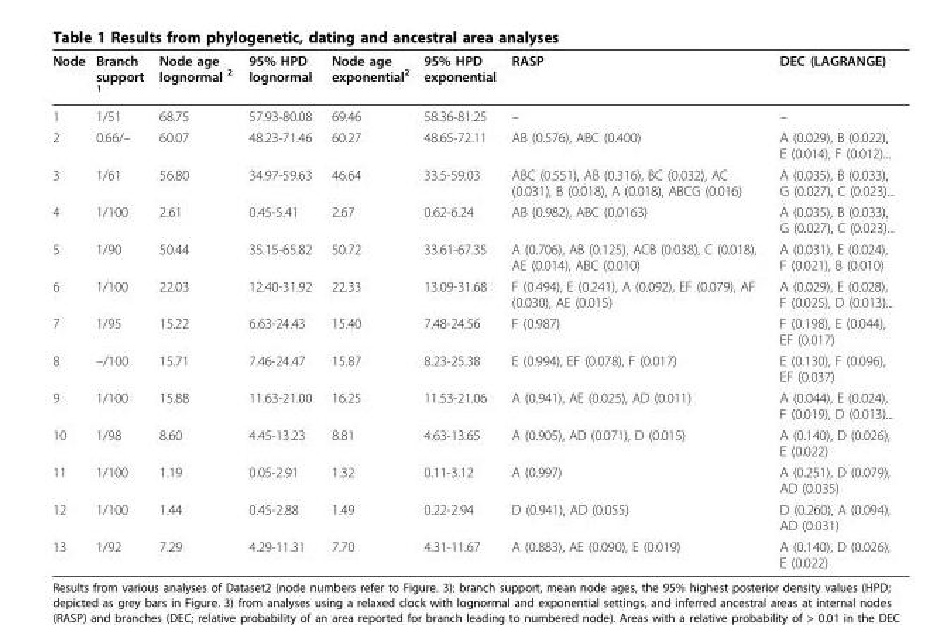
<table><thead><tr><td>Node</td><td>Branch support <sup>1</sup></td><td>Node age lognormal <sup>2</sup></td><td>95% HPD lognormal</td><td>Node age exponential<sup>2</sup></td><td>95% HPD exponential</td><td>RASP</td><td>DEC (LAGRANGE)</td></tr></thead><tbody><tr><td>1</td><td>1/51</td><td>68.75</td><td>57.93-80.08</td><td>69.46</td><td>58.36-81.25</td><td>–</td><td>–</td></tr><tr><td>2</td><td>0.66/–</td><td>60.07</td><td>48.23-71.46</td><td>60.27</td><td>48.65-72.11</td><td>AB (0.576), ABC (0.400)</td><td>A (0.029), B (0.022), E (0.014), F (0.012)...</td></tr><tr><td>3</td><td>1/61</td><td>56.80</td><td>34.97-59.63</td><td>46.64</td><td>33.5-59.03</td><td>ABC (0.551), AB (0.316), BC (0.032), AC (0.031), B (0.018), A (0.018), ABCG (0.016)</td><td>A (0.035), B (0.033), G (0.027), C (0.023)...</td></tr><tr><td>4</td><td>1/100</td><td>2.61</td><td>0.45-5.41</td><td>2.67</td><td>0.62-6.24</td><td>AB (0.982), ABC (0.0163)</td><td>A (0.035), B (0.033), G (0.027), C (0.023)...</td></tr><tr><td>5</td><td>1/90</td><td>50.44</td><td>35.15-65.82</td><td>50.72</td><td>33.61-67.35</td><td>A (0.706), AB (0.125), ACB (0.038), C (0.018), AE (0.014), ABC (0.010)</td><td>A (0.031), E (0.024), F (0.021), B (0.010)</td></tr><tr><td>6</td><td>1/100</td><td>22.03</td><td>12.40-31.92</td><td>22.33</td><td>13.09-31.68</td><td>F (0.494), E (0.241), A (0.092), EF (0.079), AF (0.030), AE (0.015)</td><td>A (0.029), E (0.028), F (0.025), D (0.013)...</td></tr><tr><td>7</td><td>1/95</td><td>15.22</td><td>6.63-24.43</td><td>15.40</td><td>7.48-24.56</td><td>F (0.987)</td><td>F (0.198), E (0.044), EF (0.017)</td></tr><tr><td>8</td><td>–/100</td><td>15.71</td><td>7.46-24.47</td><td>15.87</td><td>8.23-25.38</td><td>E (0.994), EF (0.078), F (0.017)</td><td>E (0.130), F (0.096), EF (0.037)</td></tr><tr><td>9</td><td>1/100</td><td>15.88</td><td>11.63-21.00</td><td>16.25</td><td>11.53-21.06</td><td>A (0.941), AE (0.025), AD (0.011)</td><td>A (0.044), E (0.024), F (0.019), D (0.013)...</td></tr><tr><td>10</td><td>1/98</td><td>8.60</td><td>4.45-13.23</td><td>8.81</td><td>4.63-13.65</td><td>A (0.905), AD (0.071), D (0.015)</td><td>A (0.140), D (0.026), E (0.022)</td></tr><tr><td>11</td><td>1/100</td><td>1.19</td><td>0.05-2.91</td><td>1.32</td><td>0.11-3.12</td><td>A (0.997)</td><td>A (0.251), D (0.079), AD (0.035)</td></tr><tr><td>12</td><td>1/100</td><td>1.44</td><td>0.45-2.88</td><td>1.49</td><td>0.22-2.94</td><td>D (0.941), AD (0.055)</td><td>D (0.260), A (0.094), AD (0.031)</td></tr><tr><td>13</td><td>1/92</td><td>7.29</td><td>4.29-11.31</td><td>7.70</td><td>4.31-11.67</td><td>A (0.883), AE (0.090), E (0.019)</td><td>A (0.140), D (0.026), E (0.022)</td></tr></tbody></table>